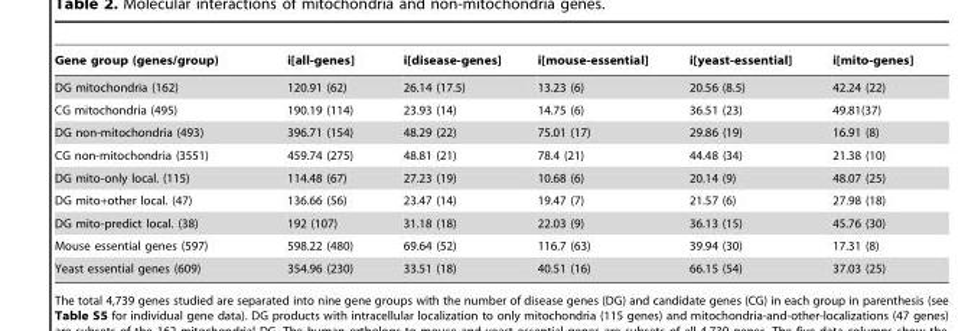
<table><thead><tr><td>Gene group (genes/group)</td><td>i[all-genes]</td><td>i[disease-genes]</td><td>i[mouse-essential]</td><td>i[yeast-essential]</td><td>i[mito-genes]</td></tr></thead><tbody><tr><td>DG mitochondria (162)</td><td>120.91 (62)</td><td>26.14 (17.5)</td><td>13.23 (6)</td><td>20.56 (8.5)</td><td>42.24 (22)</td></tr><tr><td>CG mitochondria (495)</td><td>190.19 (114)</td><td>23.93 (14)</td><td>14.75 (6)</td><td>36.51 (23)</td><td>49.81(37)</td></tr><tr><td>DG non-mitochondria (493)</td><td>396.71 (154)</td><td>48.29 (22)</td><td>75.01 (17)</td><td>29.86 (19)</td><td>16.91 (8)</td></tr><tr><td>CG non-mitochondria (3551)</td><td>459.74 (275)</td><td>48.81 (21)</td><td>78.4 (21)</td><td>44.48 (34)</td><td>21.38 (10)</td></tr><tr><td>DG mito-only local. (115)</td><td>114.48 (67)</td><td>27.23 (19)</td><td>10.68 (6)</td><td>20.14 (9)</td><td>48.07 (25)</td></tr><tr><td>DG mito+other local. (47)</td><td>136.66 (56)</td><td>23.47 (14)</td><td>19.47 (7)</td><td>21.57 (6)</td><td>27.98 (18)</td></tr><tr><td>DG mito-predict local. (38)</td><td>192 (107)</td><td>31.18 (18)</td><td>22.03 (9)</td><td>36.13 (15)</td><td>45.76 (30)</td></tr><tr><td>Mouse essential genes (597)</td><td>598.22 (480)</td><td>69.64 (52)</td><td>116.7 (63)</td><td>39.94 (30)</td><td>17.31 (8)</td></tr><tr><td>Yeast essential genes (609)</td><td>354.96 (230)</td><td>33.51 (18)</td><td>40.51 (16)</td><td>66.15 (54)</td><td>37.03 (25)</td></tr></tbody></table>